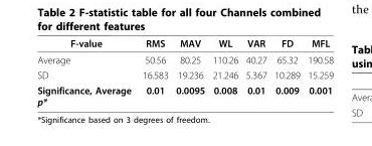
<table><thead><tr><td>F-value</td><td>RMS</td><td>MAV</td><td>WL</td><td>VAR</td><td>FD</td><td>MFL</td></tr></thead><tbody><tr><td>Average</td><td>50.56</td><td>80.25</td><td>110.26</td><td>40.27</td><td>65.32</td><td>190.58</td></tr><tr><td>SD</td><td>16.583</td><td>19.236</td><td>21.246</td><td>5.367</td><td>10.289</td><td>15.259</td></tr><tr><td>Significance, Average p*</td><td>0.01</td><td>0.0095</td><td>0.008</td><td>0.01</td><td>0.009</td><td>0.001</td></tr></tbody></table>